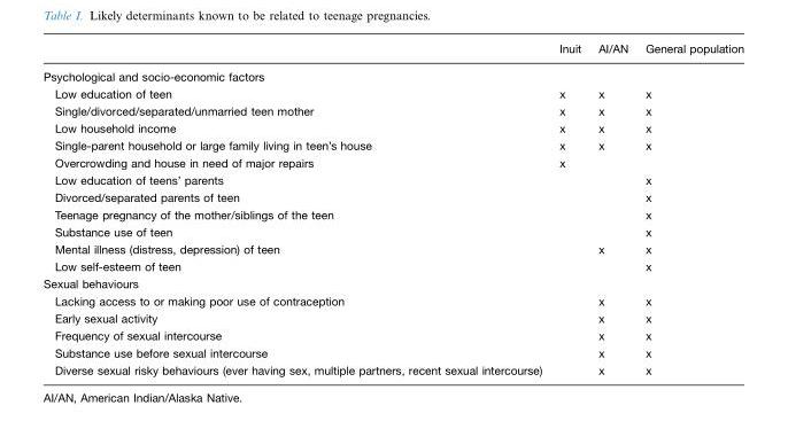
<table><thead><tr><td></td><td>Inuit</td><td>AI/AN</td><td>General population</td></tr></thead><tbody><tr><td colspan="4">Psychological and socio-economic factors</td></tr><tr><td>Low education of teen</td><td>x</td><td>x</td><td>x</td></tr><tr><td>Single/divorced/separated/unmarried teen mother</td><td>x</td><td>x</td><td>x</td></tr><tr><td>Low household income</td><td>x</td><td>x</td><td>x</td></tr><tr><td>Single-parent household or large family living in teen’s house</td><td>x</td><td>x</td><td>x</td></tr><tr><td>Overcrowding and house in need of major repairs</td><td>x</td><td></td><td></td></tr><tr><td>Low education of teens’ parents</td><td></td><td></td><td>x</td></tr><tr><td>Divorced/separated parents of teen</td><td></td><td></td><td>x</td></tr><tr><td>Teenage pregnancy of the mother/siblings of the teen</td><td></td><td></td><td>x</td></tr><tr><td>Substance use of teen</td><td></td><td></td><td>x</td></tr><tr><td>Mental illness (distress, depression) of teen</td><td></td><td>x</td><td>x</td></tr><tr><td>Low self-esteem of teen</td><td></td><td></td><td>x</td></tr><tr><td colspan="4">Sexual behaviours</td></tr><tr><td>Lacking access to or making poor use of contraception</td><td></td><td>x</td><td>x</td></tr><tr><td>Early sexual activity</td><td></td><td>x</td><td>x</td></tr><tr><td>Frequency of sexual intercourse</td><td></td><td>x</td><td>x</td></tr><tr><td>Substance use before sexual intercourse</td><td></td><td>x</td><td>x</td></tr><tr><td>Diverse sexual risky behaviours (ever having sex, multiple partners, recent sexual intercourse)</td><td></td><td>x</td><td>x</td></tr></tbody></table>